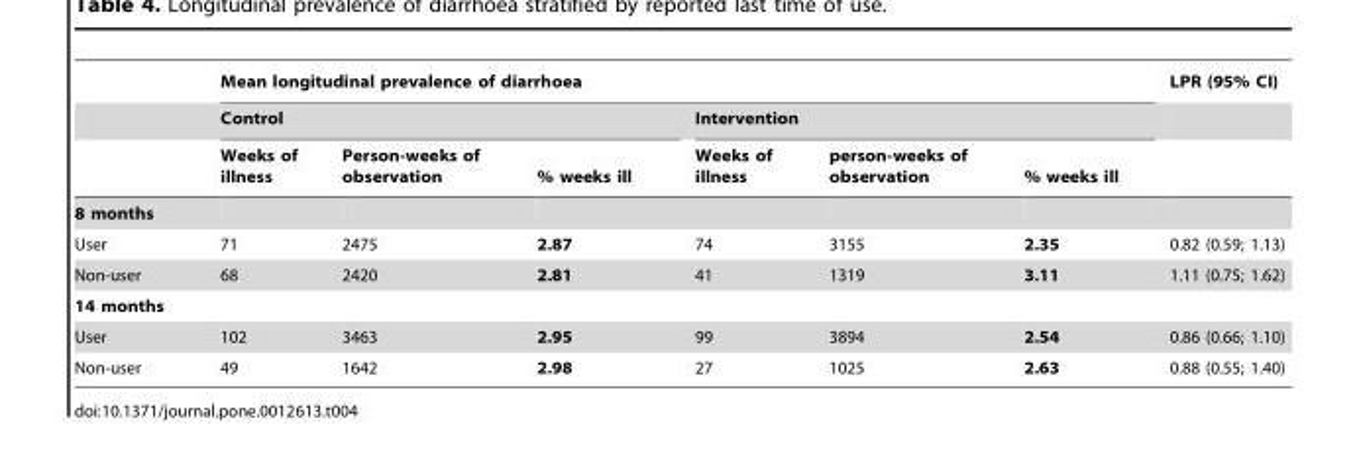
<table><thead><tr><td rowspan="3"></td><td colspan="6">Mean longitudinal prevalence of diarrhoea</td><td rowspan="3">LPR (95% CI)</td></tr><tr><td colspan="3">Control</td><td colspan="3">Intervention</td></tr><tr><td>Weeks of illness</td><td>Person-weeks of observation</td><td>% weeks ill</td><td>Weeks of illness</td><td>person-weeks of observation</td><td>% weeks ill</td></tr></thead><tbody><tr><td colspan="8">8 months</td></tr><tr><td>User</td><td>71</td><td>2475</td><td>2.87</td><td>74</td><td>3155</td><td>2.35</td><td>0.82 (0.59; 1.13)</td></tr><tr><td>Non-user</td><td>68</td><td>2420</td><td>2.81</td><td>41</td><td>1319</td><td>3.11</td><td>1.11 (0.75; 1.62)</td></tr><tr><td colspan="8">14 months</td></tr><tr><td>User</td><td>102</td><td>3463</td><td>2.95</td><td>99</td><td>3894</td><td>2.54</td><td>0.86 (0.66; 1.10)</td></tr><tr><td>Non-user</td><td>49</td><td>1642</td><td>2.98</td><td>27</td><td>1025</td><td>2.63</td><td>0.88 (0.55; 1.40)</td></tr></tbody></table>